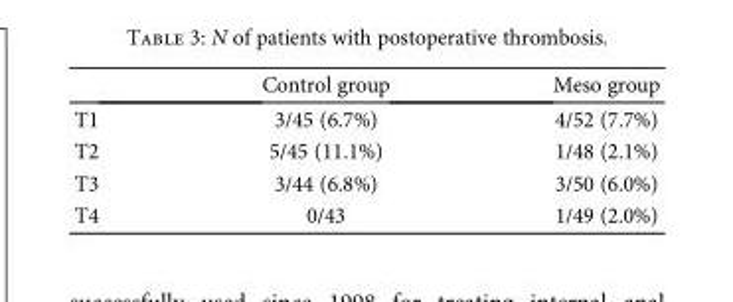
<table><thead><tr><td></td><td>Control group</td><td>Meso group</td></tr></thead><tbody><tr><td>T1</td><td>3/45 (6.7%)</td><td>4/52 (7.7%)</td></tr><tr><td>T2</td><td>5/45 (11.1%)</td><td>1/48 (2.1%)</td></tr><tr><td>T3</td><td>3/44 (6.8%)</td><td>3/50 (6.0%)</td></tr><tr><td>T4</td><td>0/43</td><td>1/49 (2.0%)</td></tr></tbody></table>